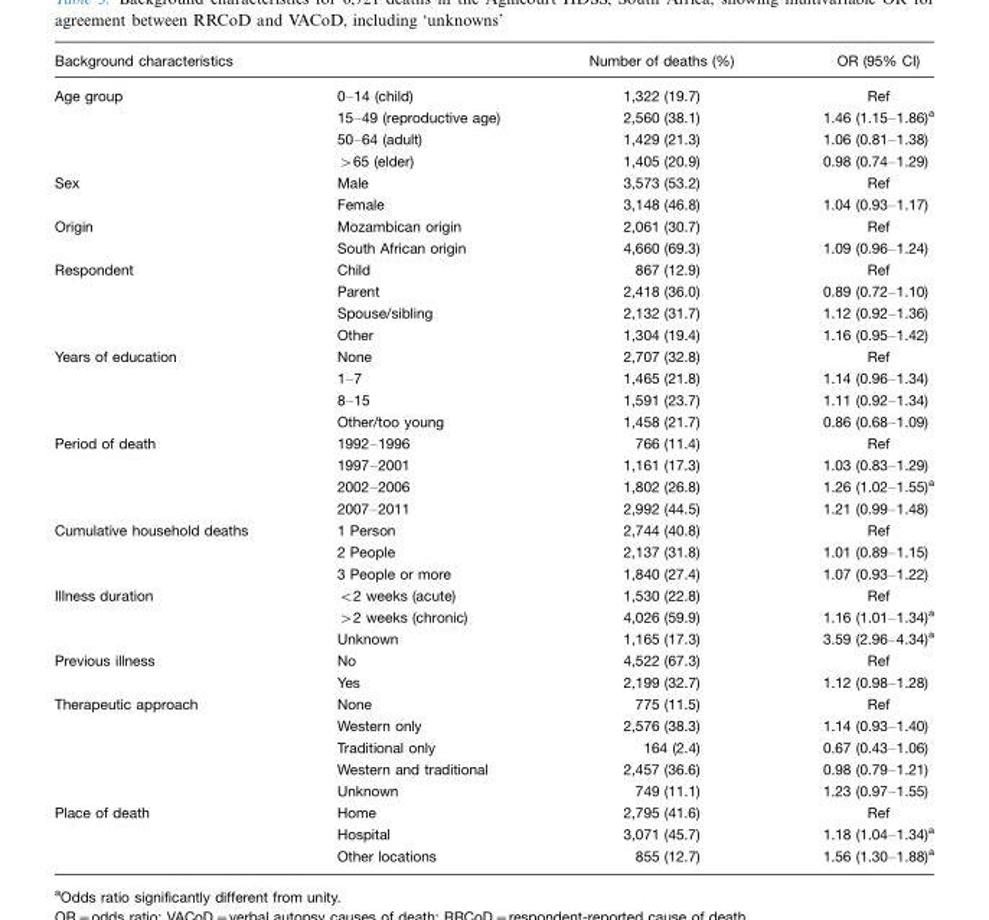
<table><thead><tr><td>Background characteristics</td><td></td><td>Number of deaths (%)</td><td>OR (95% CI)</td></tr></thead><tbody><tr><td rowspan="4">Age group</td><td>0–14 (child)</td><td>1,322 (19.7)</td><td>Ref</td></tr><tr><td>15–49 (reproductive age)</td><td>2,560 (38.1)</td><td>1.46 (1.15–1.86)<sup>a</sup></td></tr><tr><td>50–64 (adult)</td><td>1,429 (21.3)</td><td>1.06 (0.81–1.38)</td></tr><tr><td>&gt;65 (elder)</td><td>1,405 (20.9)</td><td>0.98 (0.74–1.29)</td></tr><tr><td rowspan="2">Sex</td><td>Male</td><td>3,573 (53.2)</td><td>Ref</td></tr><tr><td>Female</td><td>3,148 (46.8)</td><td>1.04 (0.93–1.17)</td></tr><tr><td rowspan="2">Origin</td><td>Mozambican origin</td><td>2,061 (30.7)</td><td>Ref</td></tr><tr><td>South African origin</td><td>4,660 (69.3)</td><td>1.09 (0.96–1.24)</td></tr><tr><td rowspan="4">Respondent</td><td>Child</td><td>867 (12.9)</td><td>Ref</td></tr><tr><td>Parent</td><td>2,418 (36.0)</td><td>0.89 (0.72–1.10)</td></tr><tr><td>Spouse/sibling</td><td>2,132 (31.7)</td><td>1.12 (0.92–1.36)</td></tr><tr><td>Other</td><td>1,304 (19.4)</td><td>1.16 (0.95–1.42)</td></tr><tr><td rowspan="4">Years of education</td><td>None</td><td>2,707 (32.8)</td><td>Ref</td></tr><tr><td>1–7</td><td>1,465 (21.8)</td><td>1.14 (0.96–1.34)</td></tr><tr><td>8–15</td><td>1,591 (23.7)</td><td>1.11 (0.92–1.34)</td></tr><tr><td>Other/too young</td><td>1,458 (21.7)</td><td>0.86 (0.68–1.09)</td></tr><tr><td rowspan="4">Period of death</td><td>1992–1996</td><td>766 (11.4)</td><td>Ref</td></tr><tr><td>1997–2001</td><td>1,161 (17.3)</td><td>1.03 (0.83–1.29)</td></tr><tr><td>2002–2006</td><td>1,802 (26.8)</td><td>1.26 (1.02–1.55)<sup>a</sup></td></tr><tr><td>2007–2011</td><td>2,992 (44.5)</td><td>1.21 (0.99–1.48)</td></tr><tr><td rowspan="3">Cumulative household deaths</td><td>1 Person</td><td>2,744 (40.8)</td><td>Ref</td></tr><tr><td>2 People</td><td>2,137 (31.8)</td><td>1.01 (0.89–1.15)</td></tr><tr><td>3 People or more</td><td>1,840 (27.4)</td><td>1.07 (0.93–1.22)</td></tr><tr><td rowspan="3">Illness duration</td><td>&lt;2 weeks (acute)</td><td>1,530 (22.8)</td><td>Ref</td></tr><tr><td>&gt;2 weeks (chronic)</td><td>4,026 (59.9)</td><td>1.16 (1.01–1.34)<sup>a</sup></td></tr><tr><td>Unknown</td><td>1,165 (17.3)</td><td>3.59 (2.96–4.34)<sup>a</sup></td></tr><tr><td rowspan="2">Previous illness</td><td>No</td><td>4,522 (67.3)</td><td>Ref</td></tr><tr><td>Yes</td><td>2,199 (32.7)</td><td>1.12 (0.98–1.28)</td></tr><tr><td rowspan="5">Therapeutic approach</td><td>None</td><td>775 (11.5)</td><td>Ref</td></tr><tr><td>Western only</td><td>2,576 (38.3)</td><td>1.14 (0.93–1.40)</td></tr><tr><td>Traditional only</td><td>164 (2.4)</td><td>0.67 (0.43–1.06)</td></tr><tr><td>Western and traditional</td><td>2,457 (36.6)</td><td>0.98 (0.79–1.21)</td></tr><tr><td>Unknown</td><td>749 (11.1)</td><td>1.23 (0.97–1.55)</td></tr><tr><td rowspan="3">Place of death</td><td>Home</td><td>2,795 (41.6)</td><td>Ref</td></tr><tr><td>Hospital</td><td>3,071 (45.7)</td><td>1.18 (1.04–1.34)<sup>a</sup></td></tr><tr><td>Other locations</td><td>855 (12.7)</td><td>1.56 (1.30–1.88)<sup>a</sup></td></tr></tbody></table>